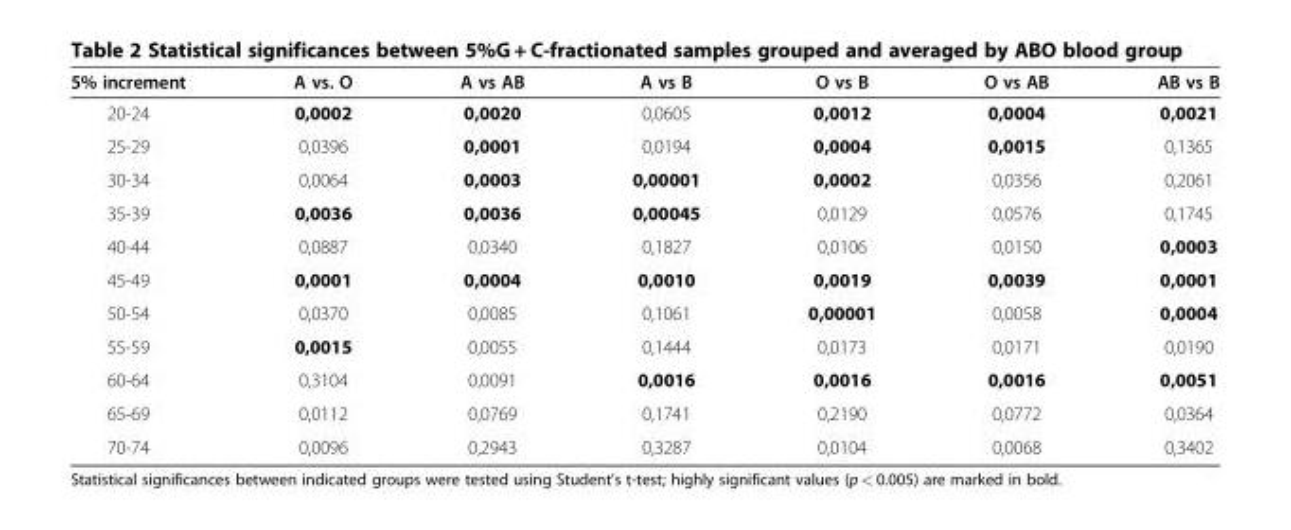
<table><thead><tr><td>5% increment</td><td>A vs. O</td><td>A vs AB</td><td>A vs B</td><td>O vs B</td><td>O vs AB</td><td>AB vs B</td></tr></thead><tbody><tr><td>20-24</td><td>0,0002</td><td>0,0020</td><td>0,0605</td><td>0,0012</td><td>0,0004</td><td>0,0021</td></tr><tr><td>25-29</td><td>0,0396</td><td>0,0001</td><td>0,0194</td><td>0,0004</td><td>0,0015</td><td>0,1365</td></tr><tr><td>30-34</td><td>0,0064</td><td>0,0003</td><td>0,00001</td><td>0,0002</td><td>0,0356</td><td>0,2061</td></tr><tr><td>35-39</td><td>0,0036</td><td>0,0036</td><td>0,00045</td><td>0,0129</td><td>0,0576</td><td>0,1745</td></tr><tr><td>40-44</td><td>0,0887</td><td>0,0340</td><td>0,1827</td><td>0,0106</td><td>0,0150</td><td>0,0003</td></tr><tr><td>45-49</td><td>0,0001</td><td>0,0004</td><td>0,0010</td><td>0,0019</td><td>0,0039</td><td>0,0001</td></tr><tr><td>50-54</td><td>0,0370</td><td>0,0085</td><td>0,1061</td><td>0,00001</td><td>0,0058</td><td>0,0004</td></tr><tr><td>55-59</td><td>0,0015</td><td>0,0055</td><td>0,1444</td><td>0,0173</td><td>0,0171</td><td>0,0190</td></tr><tr><td>60-64</td><td>0,3104</td><td>0,0091</td><td>0,0016</td><td>0,0016</td><td>0,0016</td><td>0,0051</td></tr><tr><td>65-69</td><td>0,0112</td><td>0,0769</td><td>0,1741</td><td>0,2190</td><td>0,0772</td><td>0,0364</td></tr><tr><td>70-74</td><td>0,0096</td><td>0,2943</td><td>0,3287</td><td>0,0104</td><td>0,0068</td><td>0,3402</td></tr></tbody></table>